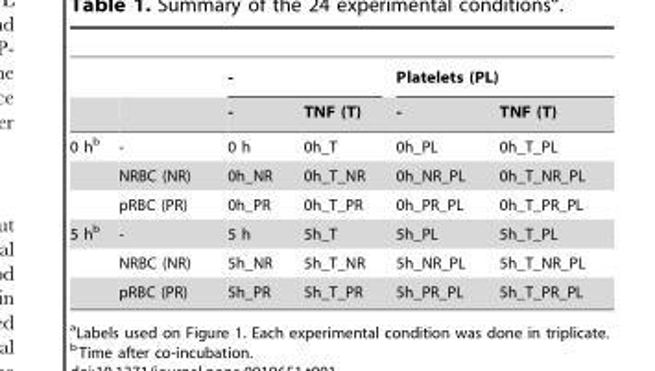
<table><thead><tr><td rowspan="2"></td><td rowspan="2"></td><td colspan="2">-</td><td colspan="2">Platelets (PL)</td></tr><tr><td>-</td><td>TNF (T)</td><td>-</td><td>TNF (T)</td></tr></thead><tbody><tr><td rowspan="3">0 h<sup>b</sup></td><td>-</td><td>0 h</td><td>0h_T</td><td>0h_PL</td><td>0h_T_PL</td></tr><tr><td>NRBC (NR)</td><td>0h_NR</td><td>0h_T_NR</td><td>0h_NR_PL</td><td>0h_T_NR_PL</td></tr><tr><td>pRBC (PR)</td><td>0h_PR</td><td>0h_T_PR</td><td>0h_PR_PL</td><td>0h_T_PR_PL</td></tr><tr><td rowspan="3">5 h<sup>b</sup></td><td>-</td><td>5 h</td><td>5h_T</td><td>5h_PL</td><td>5h_T_PL</td></tr><tr><td>NRBC (NR)</td><td>5h_NR</td><td>5h_T_NR</td><td>5h_NR_PL</td><td>5h_T_NR_PL</td></tr><tr><td>pRBC (PR)</td><td>5h_PR</td><td>5h_T_PR</td><td>5h_PR_PL</td><td>5h_T_PR_PL</td></tr></tbody></table>